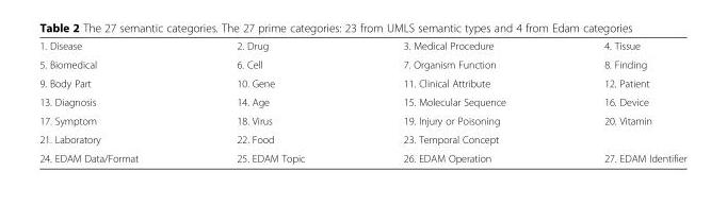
<table><tbody><tr><td>1. Disease</td><td>2. Drug</td><td>3. Medical Procedure</td><td>4. Tissue</td></tr><tr><td>5. Biomedical</td><td>6. Cell</td><td>7. Organism Function</td><td>8. Finding</td></tr><tr><td>9. Body Part</td><td>10. Gene</td><td>11. Clinical Attribute</td><td>12. Patient</td></tr><tr><td>13. Diagnosis</td><td>14. Age</td><td>15. Molecular Sequence</td><td>16. Device</td></tr><tr><td>17. Symptom</td><td>18. Virus</td><td>19. Injury or Poisoning</td><td>20. Vitamin</td></tr><tr><td>21. Laboratory</td><td>22. Food</td><td>23. Temporal Concept</td><td></td></tr><tr><td>24. EDAM Data/Format</td><td>25. EDAM Topic</td><td>26. EDAM Operation</td><td>27. EDAM Identifier</td></tr></tbody></table>